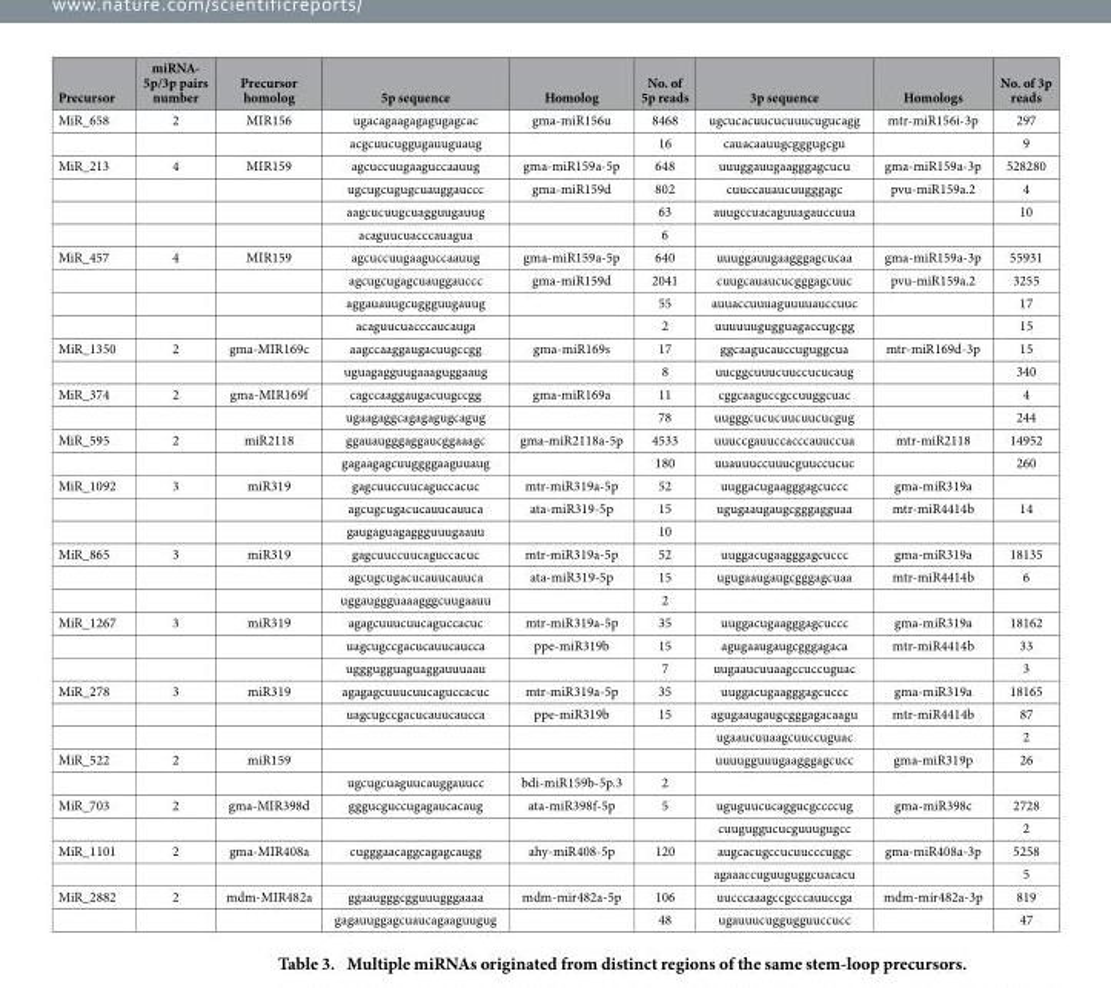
<table><thead><tr><td>Precursor</td><td>miRNA- 5p/3p pairs number</td><td>Precursor homolog</td><td>5p sequence</td><td>Homolog</td><td>No. of 5p reads</td><td>3p sequence</td><td>Homologs</td><td>No. of 3p reads</td></tr></thead><tbody><tr><td rowspan="2">MiR_658</td><td>2</td><td>MIR156</td><td>ugacagaagagagugagcac</td><td>gma-miR156u</td><td>8468</td><td>ugcucacuucucuuucugucagg</td><td>mtr-miR156i-3p</td><td>297</td></tr><tr><td></td><td></td><td>acgcuucuggugauuguaug</td><td></td><td>16</td><td>cauacaauugcgggugcgu</td><td></td><td>9</td></tr><tr><td rowspan="4">MiR_213</td><td>4</td><td>MIR159</td><td>agcuccuugaaguccaauug</td><td>gma-miR159a-5p</td><td>648</td><td>uuuggauugaagggagcucu</td><td>gma-miR159a-3p</td><td>528280</td></tr><tr><td></td><td></td><td>ugcugcugugcuauggauccc</td><td>gma-miR159d</td><td>802</td><td>cuuccauaucuugggagc</td><td>pvu-miR159a.2</td><td>4</td></tr><tr><td></td><td></td><td>aagcucuugcuagguugauug</td><td></td><td>63</td><td>auugccuacaguuagauccuua</td><td></td><td>10</td></tr><tr><td></td><td></td><td>acaguucuacccauagua</td><td></td><td>6</td><td></td><td></td><td></td></tr><tr><td rowspan="4">MiR_457</td><td>4</td><td>MIR159</td><td>agcuccuugaaguccaauug</td><td>gma-miR159a-5p</td><td>640</td><td>uuuggauugaagggagcucaa</td><td>gma-miR159a-3p</td><td>55931</td></tr><tr><td></td><td></td><td>agcugcugagcuauggauccc</td><td>gma-miR159d</td><td>2041</td><td>cuugcauaucucgggagcuuc</td><td>pvu-miR159a.2</td><td>3255</td></tr><tr><td></td><td></td><td>aggauauugcuggguugauug</td><td></td><td>55</td><td>auuaccuuuaguuuuauccuuc</td><td></td><td>17</td></tr><tr><td></td><td></td><td>acaguucuacccaucauga</td><td></td><td>2</td><td>uuuuuugugguagaccugcgg</td><td></td><td>15</td></tr><tr><td rowspan="2">MiR_1350</td><td>2</td><td>gma-MIR169c</td><td>aagccaaggaugacuugccgg</td><td>gma-miR169s</td><td>17</td><td>ggcaagucauccuguggcua</td><td>mtr-miR169d-3p</td><td>15</td></tr><tr><td></td><td></td><td>uguagagguugaaaguggaaug</td><td></td><td>8</td><td>uucggcuuucuuccucucaug</td><td></td><td>340</td></tr><tr><td rowspan="2">MiR_374</td><td>2</td><td>gma-MIR169f</td><td>cagccaaggaugacuugccgg</td><td>gma-miR169a</td><td>11</td><td>cggcaaguccgccuuggcuac</td><td></td><td>4</td></tr><tr><td></td><td></td><td>ugaagaggcagagagugcagug</td><td></td><td>78</td><td>uugggcucucuucuucucgug</td><td></td><td>244</td></tr><tr><td rowspan="2">MiR_595</td><td>2</td><td>miR2118</td><td>ggauaugggaggaucggaaagc</td><td>gma-miR2118a-5p</td><td>4533</td><td>uuuccgauuccacccauuccua</td><td>mtr-miR2118</td><td>14952</td></tr><tr><td></td><td></td><td>gagaagagcuuggggaaguuaug</td><td></td><td>180</td><td>uuauuuccuuucguuccucuc</td><td></td><td>260</td></tr><tr><td rowspan="3">MiR_1092</td><td>3</td><td>miR319</td><td>gagcuuccuucaguccacuc</td><td>mtr-miR319a-5p</td><td>52</td><td>uuggacugaagggagcuccc</td><td>gma-miR319a</td><td></td></tr><tr><td></td><td></td><td>agcugcugacucauucauuca</td><td>ata-miR319-5p</td><td>15</td><td>ugugaaugaugcgggagguaa</td><td>mtr-miR4414b</td><td>14</td></tr><tr><td></td><td></td><td>gaugaguagaggguuugaauu</td><td></td><td>10</td><td></td><td></td><td></td></tr><tr><td rowspan="3">MiR_865</td><td>3</td><td>miR319</td><td>gagcuuccuucaguccacuc</td><td>mtr-miR319a-5p</td><td>52</td><td>uuggacugaagggagcuccc</td><td>gma-miR319a</td><td>18135</td></tr><tr><td></td><td></td><td>agcugcugacucauucauuca</td><td>ata-miR319-5p</td><td>15</td><td>ugugaaugaugcgggagcuaa</td><td>mtr-miR4414b</td><td>6</td></tr><tr><td></td><td></td><td>uggauggguaaagggcuugaauu</td><td></td><td>2</td><td></td><td></td><td></td></tr><tr><td rowspan="3">MiR_1267</td><td>3</td><td>miR319</td><td>agagcuuucuucaguccacuc</td><td>mtr-miR319a-5p</td><td>35</td><td>uuggacugaagggagcuccc</td><td>gma-miR319a</td><td>18162</td></tr><tr><td></td><td></td><td>uagcugccgacucauucaucca</td><td>ppe-miR319b</td><td>15</td><td>agugaaugaugcgggagaca</td><td>mtr-miR4414b</td><td>33</td></tr><tr><td></td><td></td><td>ugggugguaguaggauuuaau</td><td></td><td>7</td><td>uugaaucuuaagccuccuguac</td><td></td><td>3</td></tr><tr><td rowspan="3">MiR_278</td><td>3</td><td>miR319</td><td>agagagcuuucuucaguccacuc</td><td>mtr-miR319a-5p</td><td>35</td><td>uuggacugaagggagcuccc</td><td>gma-miR319a</td><td>18165</td></tr><tr><td></td><td></td><td>uagcugccgacucauucaucca</td><td>ppe-miR319b</td><td>15</td><td>agugaaugaugcgggagacaagu</td><td>mtr-miR4414b</td><td>87</td></tr><tr><td></td><td></td><td></td><td></td><td></td><td>ugaaucuuaagcuuccuguac</td><td></td><td>2</td></tr><tr><td rowspan="2">MiR_522</td><td>2</td><td>miR159</td><td></td><td></td><td></td><td>uuuugguuugaagggagcucc</td><td>gma-miR319p</td><td>26</td></tr><tr><td></td><td></td><td>ugcugcuaguucauggauucc</td><td>bdi-miR159b-5p.3</td><td>2</td><td></td><td></td><td></td></tr><tr><td rowspan="2">MiR_703</td><td>2</td><td>gma-MIR398d</td><td>gggucguccugagaucacaug</td><td>ata-miR398f-5p</td><td>5</td><td>uguguucucaggucgccccug</td><td>gma-miR398c</td><td>2728</td></tr><tr><td></td><td></td><td></td><td></td><td></td><td>cuuguggucucguuugugcc</td><td></td><td>2</td></tr><tr><td rowspan="2">MiR_1101</td><td>2</td><td>gma-MIR408a</td><td>cugggaacaggcagagcaugg</td><td>ahy-miR408-5p</td><td>120</td><td>augcacugccucuucccuggc</td><td>gma-miR408a-3p</td><td>5258</td></tr><tr><td></td><td></td><td></td><td></td><td></td><td>agaaaccuguuguggcuacacu</td><td></td><td>5</td></tr><tr><td rowspan="2">MiR_2882</td><td>2</td><td>mdm-MIR482a</td><td>ggaaugggcgguuugggaaaa</td><td>mdm-mir482a-5p</td><td>106</td><td>uucccaaagccgcccauuccga</td><td>mdm-mir482a-3p</td><td>819</td></tr><tr><td></td><td></td><td>gagauuggagcuaucagaaguugug</td><td></td><td>48</td><td>ugauuucuggugguuccucc</td><td></td><td>47</td></tr></tbody></table>